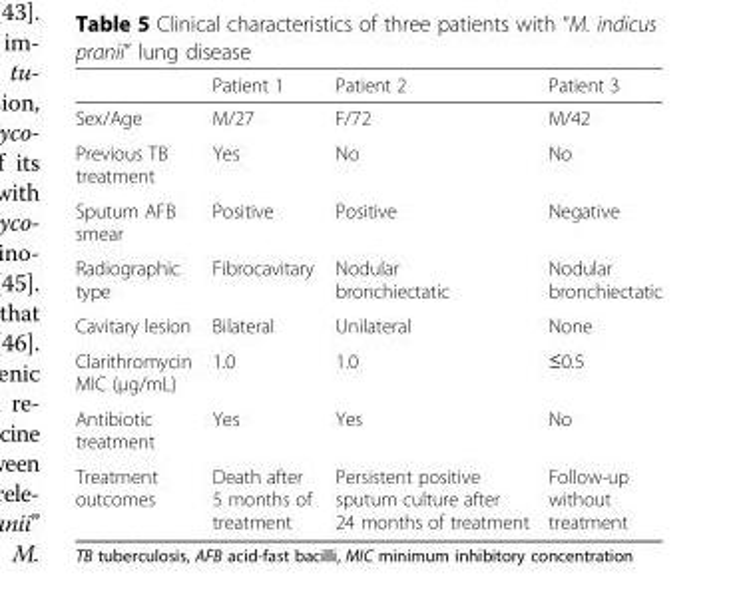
<table><thead><tr><td></td><td>Patient 1</td><td>Patient 2</td><td>Patient 3</td></tr></thead><tbody><tr><td>Sex/Age</td><td>M/27</td><td>F/72</td><td>M/42</td></tr><tr><td>Previous TB treatment</td><td>Yes</td><td>No</td><td>No</td></tr><tr><td>Sputum AFB smear</td><td>Positive</td><td>Positive</td><td>Negative</td></tr><tr><td>Radiographic type</td><td>Fibrocavitary</td><td>Nodular bronchiectatic</td><td>Nodular bronchiectatic</td></tr><tr><td>Cavitary lesion</td><td>Bilateral</td><td>Unilateral</td><td>None</td></tr><tr><td>Clarithromycin MIC (μg/mL)</td><td>1.0</td><td>1.0</td><td>≤0.5</td></tr><tr><td>Antibiotic treatment</td><td>Yes</td><td>Yes</td><td>No</td></tr><tr><td>Treatment outcomes</td><td>Death after 5 months of treatment</td><td>Persistent positive sputum culture after 24 months of treatment</td><td>Follow-up without treatment</td></tr></tbody></table>